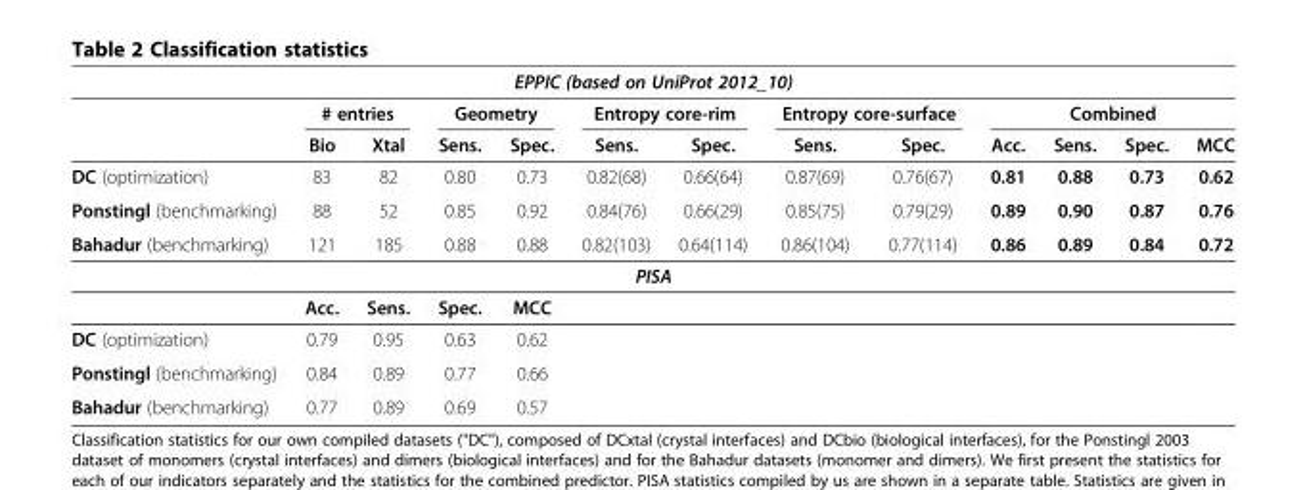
<table><thead><tr><td colspan="13">EPPIC (based on UniProt 2012_10)</td></tr><tr><td rowspan="2"></td><td colspan="2"># entries</td><td colspan="2">Geometry</td><td colspan="2">Entropy core-rim</td><td colspan="2">Entropy core-surface</td><td colspan="4">Combined</td></tr><tr><td>Bio</td><td>Xtal</td><td>Sens.</td><td>Spec.</td><td>Sens.</td><td>Spec.</td><td>Sens.</td><td>Spec.</td><td>Acc.</td><td>Sens.</td><td>Spec.</td><td>MCC</td></tr></thead><tbody><tr><td>DC (optimization)</td><td>83</td><td>82</td><td>0.80</td><td>0.73</td><td>0.82(68)</td><td>0.66(64)</td><td>0.87(69)</td><td>0.76(67)</td><td>0.81</td><td>0.88</td><td>0.73</td><td>0.62</td></tr><tr><td>Ponstingl (benchmarking)</td><td>88</td><td>52</td><td>0.85</td><td>0.92</td><td>0.84(76)</td><td>0.66(29)</td><td>0.85(75)</td><td>0.79(29)</td><td>0.89</td><td>0.90</td><td>0.87</td><td>0.76</td></tr><tr><td>Bahadur (benchmarking)</td><td>121</td><td>185</td><td>0.88</td><td>0.88</td><td>0.82(103)</td><td>0.64(114)</td><td>0.86(104)</td><td>0.77(114)</td><td>0.86</td><td>0.89</td><td>0.84</td><td>0.72</td></tr><tr><td colspan="13">PISA</td></tr><tr><td></td><td>Acc.</td><td>Sens.</td><td>Spec.</td><td>MCC</td><td></td><td></td><td></td><td></td><td></td><td></td><td></td><td></td></tr><tr><td>DC (optimization)</td><td>0.79</td><td>0.95</td><td>0.63</td><td>0.62</td><td></td><td></td><td></td><td></td><td></td><td></td><td></td><td></td></tr><tr><td>Ponstingl (benchmarking)</td><td>0.84</td><td>0.89</td><td>0.77</td><td>0.66</td><td></td><td></td><td></td><td></td><td></td><td></td><td></td><td></td></tr><tr><td>Bahadur (benchmarking)</td><td>0.77</td><td>0.89</td><td>0.69</td><td>0.57</td><td></td><td></td><td></td><td></td><td></td><td></td><td></td><td></td></tr></tbody></table>